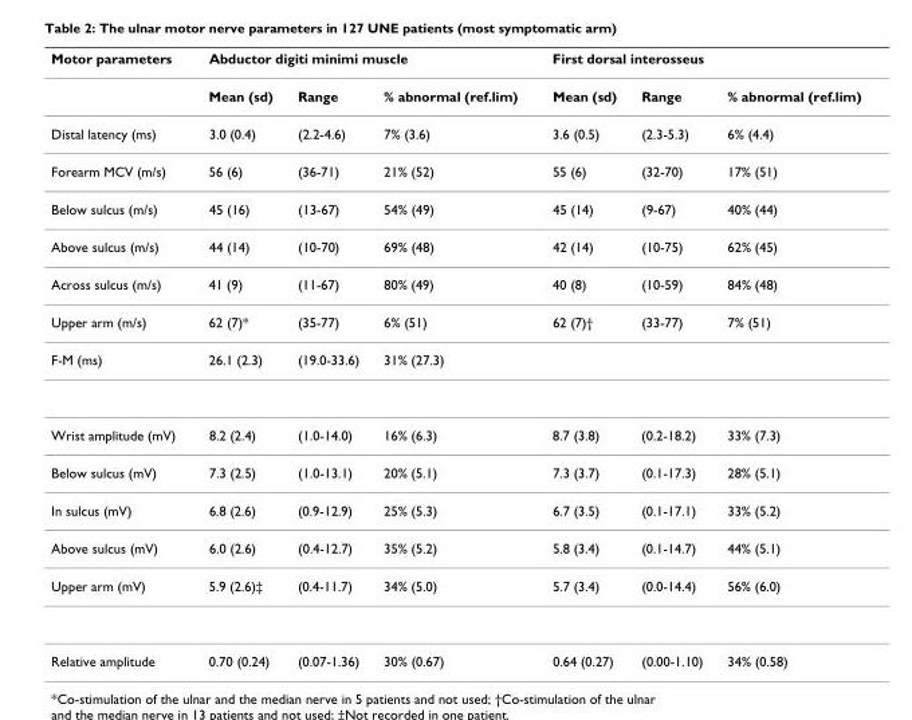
<table><thead><tr><td rowspan="2">Motor parameters</td><td colspan="3">Abductor digiti minimi muscle</td><td colspan="3">First dorsal interosseus</td></tr><tr><td>Mean (sd)</td><td>Range</td><td>% abnormal (ref.lim)</td><td>Mean (sd)</td><td>Range</td><td>% abnormal (ref.lim)</td></tr></thead><tbody><tr><td>Distal latency (ms)</td><td>3.0 (0.4)</td><td>(2.2-4.6)</td><td>7% (3.6)</td><td>3.6 (0.5)</td><td>(2.3-5.3)</td><td>6% (4.4)</td></tr><tr><td>Forearm MCV (m/s)</td><td>56 (6)</td><td>(36-71)</td><td>21% (52)</td><td>55 (6)</td><td>(32-70)</td><td>17% (51)</td></tr><tr><td>Below sulcus (m/s)</td><td>45 (16)</td><td>(13-67)</td><td>54% (49)</td><td>45 (14)</td><td>(9-67)</td><td>40% (44)</td></tr><tr><td>Above sulcus (m/s)</td><td>44 (14)</td><td>(10-70)</td><td>69% (48)</td><td>42 (14)</td><td>(10-75)</td><td>62% (45)</td></tr><tr><td>Across sulcus (m/s)</td><td>41 (9)</td><td>(11-67)</td><td>80% (49)</td><td>40 (8)</td><td>(10-59)</td><td>84% (48)</td></tr><tr><td>Upper arm (m/s)</td><td>62 (7)*</td><td>(35-77)</td><td>6% (51)</td><td>62 (7)†</td><td>(33-77)</td><td>7% (51)</td></tr><tr><td>F-M (ms)</td><td>26.1 (2.3)</td><td>(19.0-33.6)</td><td>31% (27.3)</td><td></td><td></td><td></td></tr><tr><td>Wrist amplitude (mV)</td><td>8.2 (2.4)</td><td>(1.0-14.0)</td><td>16% (6.3)</td><td>8.7 (3.8)</td><td>(0.2-18.2)</td><td>33% (7.3)</td></tr><tr><td>Below sulcus (mV)</td><td>7.3 (2.5)</td><td>(1.0-13.1)</td><td>20% (5.1)</td><td>7.3 (3.7)</td><td>(0.1-17.3)</td><td>28% (5.1)</td></tr><tr><td>In sulcus (mV)</td><td>6.8 (2.6)</td><td>(0.9-12.9)</td><td>25% (5.3)</td><td>6.7 (3.5)</td><td>(0.1-17.1)</td><td>33% (5.2)</td></tr><tr><td>Above sulcus (mV)</td><td>6.0 (2.6)</td><td>(0.4-12.7)</td><td>35% (5.2)</td><td>5.8 (3.4)</td><td>(0.1-14.7)</td><td>44% (5.1)</td></tr><tr><td>Upper arm (mV)</td><td>5.9 (2.6)‡</td><td>(0.4-11.7)</td><td>34% (5.0)</td><td>5.7 (3.4)</td><td>(0.0-14.4)</td><td>56% (6.0)</td></tr><tr><td>Relative amplitude</td><td>0.70 (0.24)</td><td>(0.07-1.36)</td><td>30% (0.67)</td><td>0.64 (0.27)</td><td>(0.00-1.10)</td><td>34% (0.58)</td></tr></tbody></table>